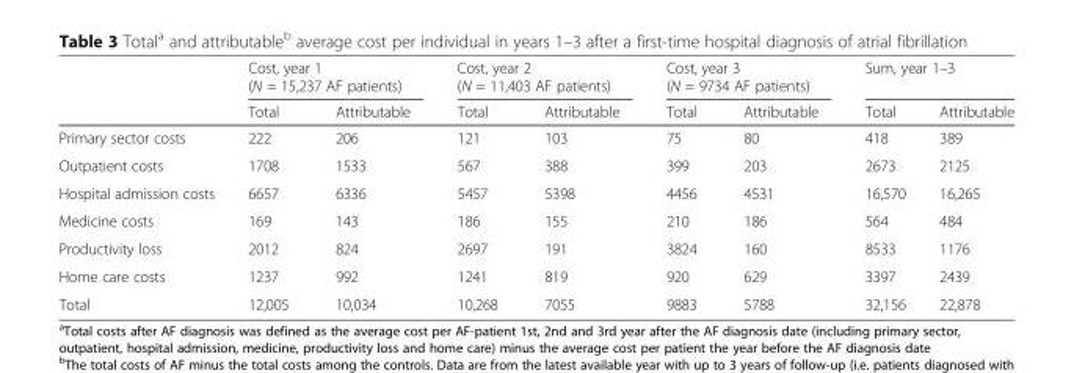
<table><thead><tr><td rowspan="2"></td><td colspan="2">Cost, year 1 (N = 15,237 AF patients)</td><td colspan="2">Cost, year 2 (N = 11,403 AF patients)</td><td colspan="2">Cost, year 3 (N = 9734 AF patients)</td><td colspan="2">Sum, year 1–3</td></tr><tr><td>Total</td><td>Attributable</td><td>Total</td><td>Attributable</td><td>Total</td><td>Attributable</td><td>Total</td><td>Attributable</td></tr></thead><tbody><tr><td>Primary sector costs</td><td>222</td><td>206</td><td>121</td><td>103</td><td>75</td><td>80</td><td>418</td><td>389</td></tr><tr><td>Outpatient costs</td><td>1708</td><td>1533</td><td>567</td><td>388</td><td>399</td><td>203</td><td>2673</td><td>2125</td></tr><tr><td>Hospital admission costs</td><td>6657</td><td>6336</td><td>5457</td><td>5398</td><td>4456</td><td>4531</td><td>16,570</td><td>16,265</td></tr><tr><td>Medicine costs</td><td>169</td><td>143</td><td>186</td><td>155</td><td>210</td><td>186</td><td>564</td><td>484</td></tr><tr><td>Productivity loss</td><td>2012</td><td>824</td><td>2697</td><td>191</td><td>3824</td><td>160</td><td>8533</td><td>1176</td></tr><tr><td>Home care costs</td><td>1237</td><td>992</td><td>1241</td><td>819</td><td>920</td><td>629</td><td>3397</td><td>2439</td></tr><tr><td>Total</td><td>12,005</td><td>10,034</td><td>10,268</td><td>7055</td><td>9883</td><td>5788</td><td>32,156</td><td>22,878</td></tr></tbody></table>